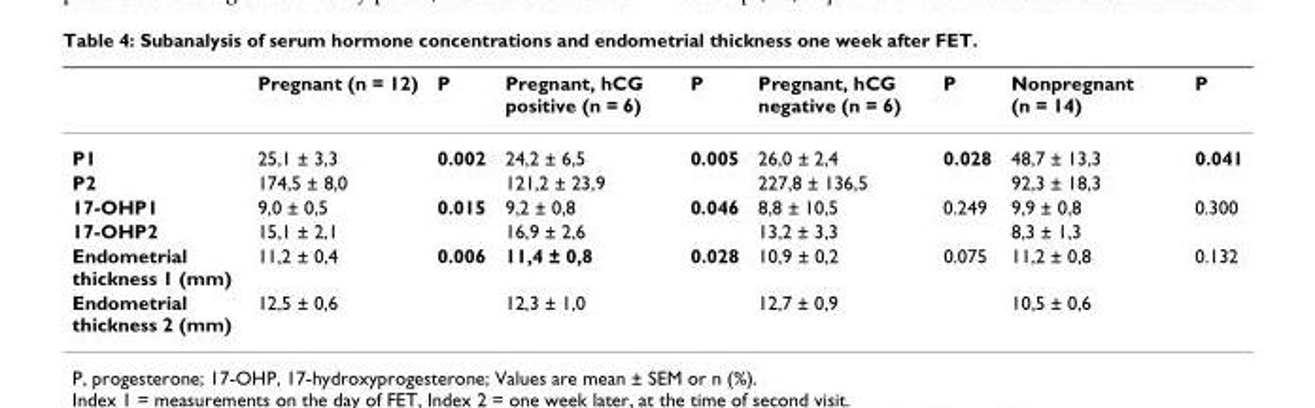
<table><thead><tr><td></td><td>Pregnant (n = 12)</td><td>P</td><td>Pregnant, hCG positive (n = 6)</td><td>P</td><td>Pregnant, hCG negative (n = 6)</td><td>P</td><td>Nonpregnant (n = 14)</td><td>P</td></tr></thead><tbody><tr><td>P1</td><td>25,1 ± 3,3</td><td>0.002</td><td>24,2 ± 6,5</td><td>0.005</td><td>26,0 ± 2,4</td><td>0.028</td><td>48,7 ± 13,3</td><td>0.041</td></tr><tr><td>P2</td><td>174,5 ± 8,0</td><td></td><td>121,2 ± 23,9</td><td></td><td>227,8 ± 136,5</td><td></td><td>92,3 ± 18,3</td><td></td></tr><tr><td>17-OHP1</td><td>9,0 ± 0,5</td><td>0.015</td><td>9,2 ± 0,8</td><td>0.046</td><td>8,8 ± 10,5</td><td>0.249</td><td>9,9 ± 0,8</td><td>0.300</td></tr><tr><td>17-OHP2</td><td>15,1 ± 2,1</td><td></td><td>16,9 ± 2,6</td><td></td><td>13,2 ± 3,3</td><td></td><td>8,3 ± 1,3</td><td></td></tr><tr><td>Endometrial thickness 1 (mm)</td><td>11,2 ± 0,4</td><td>0.006</td><td>11,4 ± 0,8</td><td>0.028</td><td>10,9 ± 0,2</td><td>0.075</td><td>11,2 ± 0,8</td><td>0.132</td></tr><tr><td>Endometrial thickness 2 (mm)</td><td>12,5 ± 0,6</td><td></td><td>12,3 ± 1,0</td><td></td><td>12,7 ± 0,9</td><td></td><td>10,5 ± 0,6</td><td></td></tr></tbody></table>